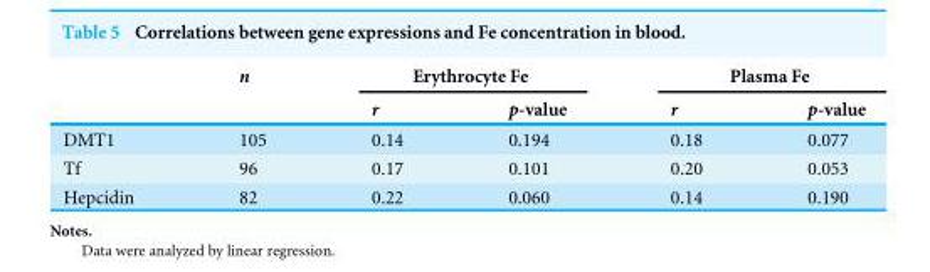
<table><thead><tr><td rowspan="2"></td><td rowspan="2">n</td><td colspan="2">Erythrocyte Fe</td><td colspan="2">Plasma Fe</td></tr><tr><td>r</td><td>p-value</td><td>r</td><td>p-value</td></tr></thead><tbody><tr><td>DMT1</td><td>105</td><td>0.14</td><td>0.194</td><td>0.18</td><td>0.077</td></tr><tr><td>Tf</td><td>96</td><td>0.17</td><td>0.101</td><td>0.20</td><td>0.053</td></tr><tr><td>Hepcidin</td><td>82</td><td>0.22</td><td>0.060</td><td>0.14</td><td>0.190</td></tr></tbody></table>